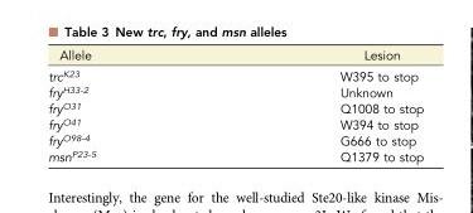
<table><thead><tr><td>Allele</td><td>Lesion</td></tr></thead><tbody><tr><td>trc<sup>K23</sup></td><td>W395 to stop</td></tr><tr><td>fry<sup>H33-2</sup></td><td>Unknown</td></tr><tr><td>fry<sup>O31</sup></td><td>Q1008 to stop</td></tr><tr><td>fry<sup>O41</sup></td><td>W394 to stop</td></tr><tr><td>fry<sup>O98-4</sup></td><td>G666 to stop</td></tr><tr><td>msn<sup>P23-5</sup></td><td>Q1379 to stop</td></tr></tbody></table>